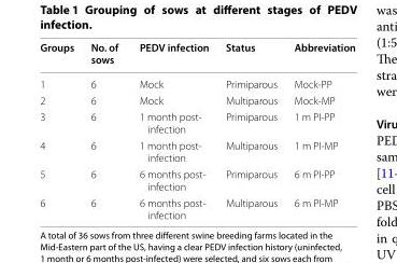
<table><thead><tr><td>Groups</td><td>No. of sows</td><td>PEDV infection</td><td>Status</td><td>Abbreviation</td></tr></thead><tbody><tr><td>1</td><td>6</td><td>Mock</td><td>Primiparous</td><td>Mock‑PP</td></tr><tr><td>2</td><td>6</td><td>Mock</td><td>Multiparous</td><td>Mock‑MP</td></tr><tr><td>3</td><td>6</td><td>1 month post‑ infection</td><td>Primiparous</td><td>1 m PI‑PP</td></tr><tr><td>4</td><td>6</td><td>1 month post‑ infection</td><td>Multiparous</td><td>1 m PI‑MP</td></tr><tr><td>5</td><td>6</td><td>6 months post‑ infection</td><td>Primiparous</td><td>6 m PI‑PP</td></tr><tr><td>6</td><td>6</td><td>6 months post‑ infection</td><td>Multiparous</td><td>6 m PI‑MP</td></tr></tbody></table>